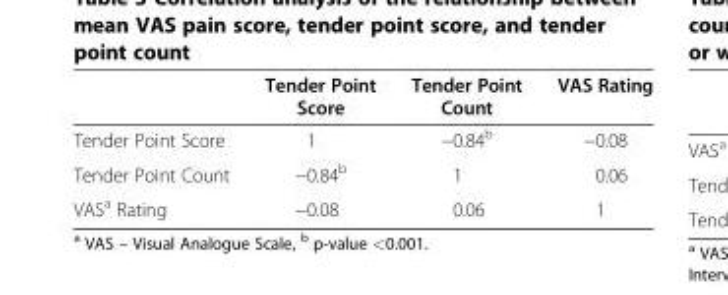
<table><thead><tr><td></td><td>Tender Point Score</td><td>Tender Point Count</td><td>VAS Rating</td></tr></thead><tbody><tr><td>Tender Point Score</td><td>1</td><td>−0.84<sup>b</sup></td><td>−0.08</td></tr><tr><td>Tender Point Count</td><td>−0.84<sup>b</sup></td><td>1</td><td>0.06</td></tr><tr><td>VAS<sup>a</sup> Rating</td><td>−0.08</td><td>0.06</td><td>1</td></tr></tbody></table>